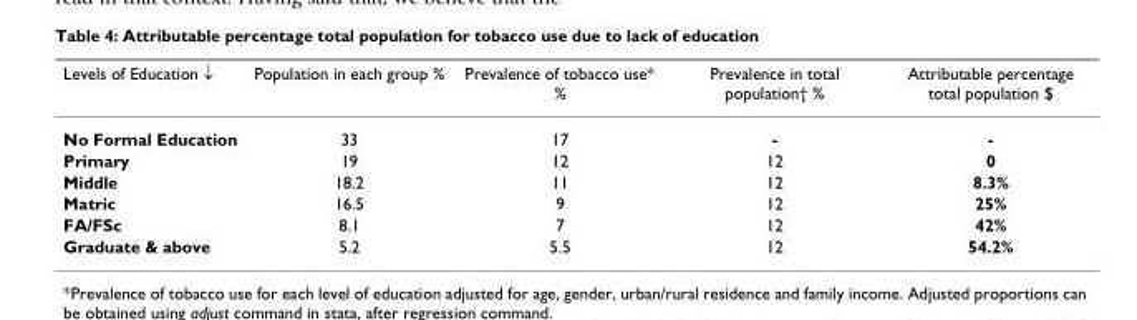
<table><thead><tr><td>Levels of Education ↓</td><td>Population in each group %</td><td>Prevalence of tobacco use* %</td><td>Prevalence in total population† %</td><td>Attributable percentage total population $</td></tr></thead><tbody><tr><td>No Formal Education</td><td>33</td><td>17</td><td>-</td><td>-</td></tr><tr><td>Primary</td><td>19</td><td>12</td><td>12</td><td>0</td></tr><tr><td>Middle</td><td>18.2</td><td>11</td><td>12</td><td>8.3%</td></tr><tr><td>Matric</td><td>16.5</td><td>9</td><td>12</td><td>25%</td></tr><tr><td>FA/FSc</td><td>8.1</td><td>7</td><td>12</td><td>42%</td></tr><tr><td>Graduate &amp; above</td><td>5.2</td><td>5.5</td><td>12</td><td>54.2%</td></tr></tbody></table>